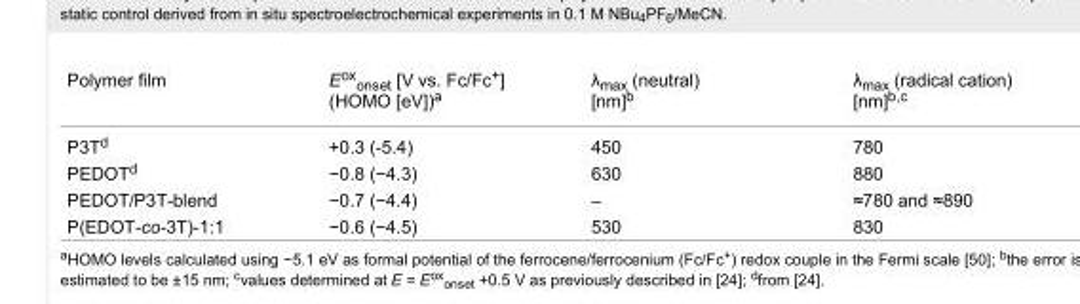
<table><tbody><tr><td>Polymer film</td><td>E<sup>ox</sup><sub>onset</sub> [V vs. Fc/Fc<sup>+</sup>] (HOMO [eV])<sup>a</sup></td><td>λ<sub>max</sub> (neutral) [nm]<sup>b</sup></td><td>λ<sub>max</sub> (radical cation) [nm]<sup>b,c</sup></td></tr><tr><td>P3T<sup>d</sup></td><td>+0.3 (-5.4)</td><td>450</td><td>780</td></tr><tr><td>PEDOT<sup>d</sup></td><td>−0.8 (−4.3)</td><td>630</td><td>880</td></tr><tr><td>PEDOT/P3T-blend</td><td>−0.7 (−4.4)</td><td>–</td><td>≈780 and ≈890</td></tr><tr><td>P(EDOT-co-3T)-1:1</td><td>−0.6 (−4.5)</td><td>530</td><td>830</td></tr></tbody></table>